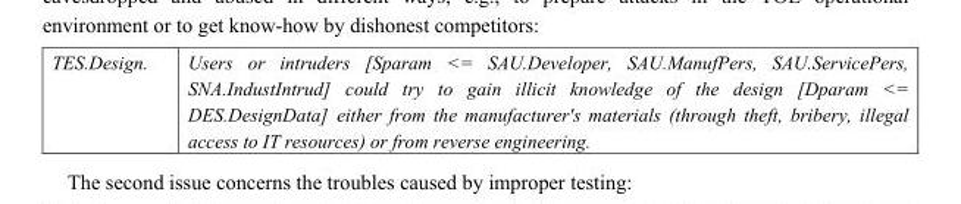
<table><tbody><tr><td>TES.Design.</td><td>Users or intruders [Sparam &lt;= SAU.Developer, SAU.ManufPers, SAU.ServicePers, SNA.IndustIntrud] could try to gain illicit knowledge of the design [Dparam &lt;= DES.DesignData] either from the manufacturer&#x27;s materials (through theft, bribery, illegal access to IT resources) or from reverse engineering.</td></tr></tbody></table>